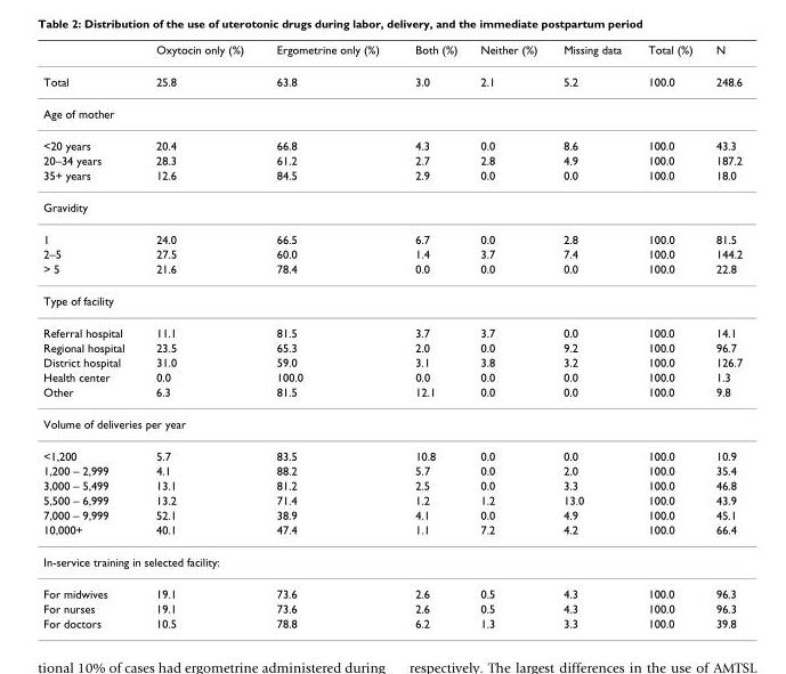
<table><thead><tr><td></td><td>Oxytocin only (%)</td><td>Ergometrine only (%)</td><td>Both (%)</td><td>Neither (%)</td><td>Missing data</td><td>Total (%)</td><td>N</td></tr></thead><tbody><tr><td>Total</td><td>25.8</td><td>63.8</td><td>3.0</td><td>2.1</td><td>5.2</td><td>100.0</td><td>248.6</td></tr><tr><td colspan="8">Age of mother</td></tr><tr><td>&lt;20 years</td><td>20.4</td><td>66.8</td><td>4.3</td><td>0.0</td><td>8.6</td><td>100.0</td><td>43.3</td></tr><tr><td>20–34 years</td><td>28.3</td><td>61.2</td><td>2.7</td><td>2.8</td><td>4.9</td><td>100.0</td><td>187.2</td></tr><tr><td>35+ years</td><td>12.6</td><td>84.5</td><td>2.9</td><td>0.0</td><td>0.0</td><td>100.0</td><td>18.0</td></tr><tr><td colspan="8">Gravidity</td></tr><tr><td>1</td><td>24.0</td><td>66.5</td><td>6.7</td><td>0.0</td><td>2.8</td><td>100.0</td><td>81.5</td></tr><tr><td>2–5</td><td>27.5</td><td>60.0</td><td>1.4</td><td>3.7</td><td>7.4</td><td>100.0</td><td>144.2</td></tr><tr><td>&gt; 5</td><td>21.6</td><td>78.4</td><td>0.0</td><td>0.0</td><td>0.0</td><td>100.0</td><td>22.8</td></tr><tr><td colspan="8">Type of facility</td></tr><tr><td>Referral hospital</td><td>11.1</td><td>81.5</td><td>3.7</td><td>3.7</td><td>0.0</td><td>100.0</td><td>14.1</td></tr><tr><td>Regional hospital</td><td>23.5</td><td>65.3</td><td>2.0</td><td>0.0</td><td>9.2</td><td>100.0</td><td>96.7</td></tr><tr><td>District hospital</td><td>31.0</td><td>59.0</td><td>3.1</td><td>3.8</td><td>3.2</td><td>100.0</td><td>126.7</td></tr><tr><td>Health center</td><td>0.0</td><td>100.0</td><td>0.0</td><td>0.0</td><td>0.0</td><td>100.0</td><td>1.3</td></tr><tr><td>Other</td><td>6.3</td><td>81.5</td><td>12.1</td><td>0.0</td><td>0.0</td><td>100.0</td><td>9.8</td></tr><tr><td colspan="8">Volume of deliveries per year</td></tr><tr><td>&lt;1,200</td><td>5.7</td><td>83.5</td><td>10.8</td><td>0.0</td><td>0.0</td><td>100.0</td><td>10.9</td></tr><tr><td>1,200 – 2,999</td><td>4.1</td><td>88.2</td><td>5.7</td><td>0.0</td><td>2.0</td><td>100.0</td><td>35.4</td></tr><tr><td>3,000 – 5,499</td><td>13.1</td><td>81.2</td><td>2.5</td><td>0.0</td><td>3.3</td><td>100.0</td><td>46.8</td></tr><tr><td>5,500 – 6,999</td><td>13.2</td><td>71.4</td><td>1.2</td><td>1.2</td><td>13.0</td><td>100.0</td><td>43.9</td></tr><tr><td>7,000 – 9,999</td><td>52.1</td><td>38.9</td><td>4.1</td><td>0.0</td><td>4.9</td><td>100.0</td><td>45.1</td></tr><tr><td>10,000+</td><td>40.1</td><td>47.4</td><td>1.1</td><td>7.2</td><td>4.2</td><td>100.0</td><td>66.4</td></tr><tr><td colspan="8">In-service training in selected facility:</td></tr><tr><td>For midwives</td><td>19.1</td><td>73.6</td><td>2.6</td><td>0.5</td><td>4.3</td><td>100.0</td><td>96.3</td></tr><tr><td>For nurses</td><td>19.1</td><td>73.6</td><td>2.6</td><td>0.5</td><td>4.3</td><td>100.0</td><td>96.3</td></tr><tr><td>For doctors</td><td>10.5</td><td>78.8</td><td>6.2</td><td>1.3</td><td>3.3</td><td>100.0</td><td>39.8</td></tr></tbody></table>